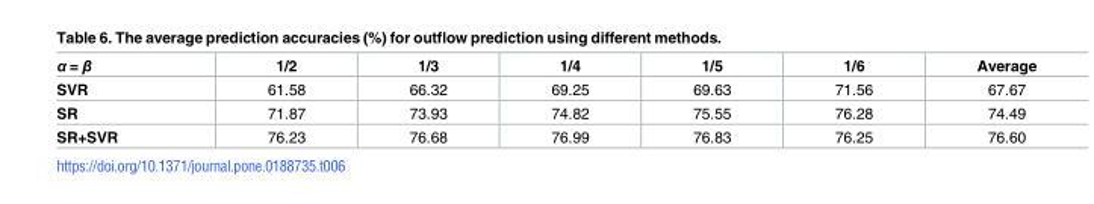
<table><thead><tr><td>α = β</td><td>1/2</td><td>1/3</td><td>1/4</td><td>1/5</td><td>1/6</td><td>Average</td></tr></thead><tbody><tr><td>SVR</td><td>61.58</td><td>66.32</td><td>69.25</td><td>69.63</td><td>71.56</td><td>67.67</td></tr><tr><td>SR</td><td>71.87</td><td>73.93</td><td>74.82</td><td>75.55</td><td>76.28</td><td>74.49</td></tr><tr><td>SR+SVR</td><td>76.23</td><td>76.68</td><td>76.99</td><td>76.83</td><td>76.25</td><td>76.60</td></tr></tbody></table>